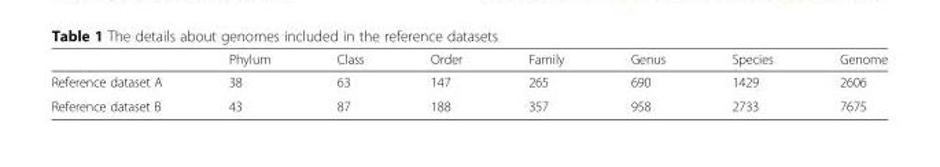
<table><thead><tr><td></td><td>Phylum</td><td>Class</td><td>Order</td><td>Family</td><td>Genus</td><td>Species</td><td>Genome</td></tr></thead><tbody><tr><td>Reference dataset A</td><td>38</td><td>63</td><td>147</td><td>265</td><td>690</td><td>1429</td><td>2606</td></tr><tr><td>Reference dataset B</td><td>43</td><td>87</td><td>188</td><td>357</td><td>958</td><td>2733</td><td>7675</td></tr></tbody></table>